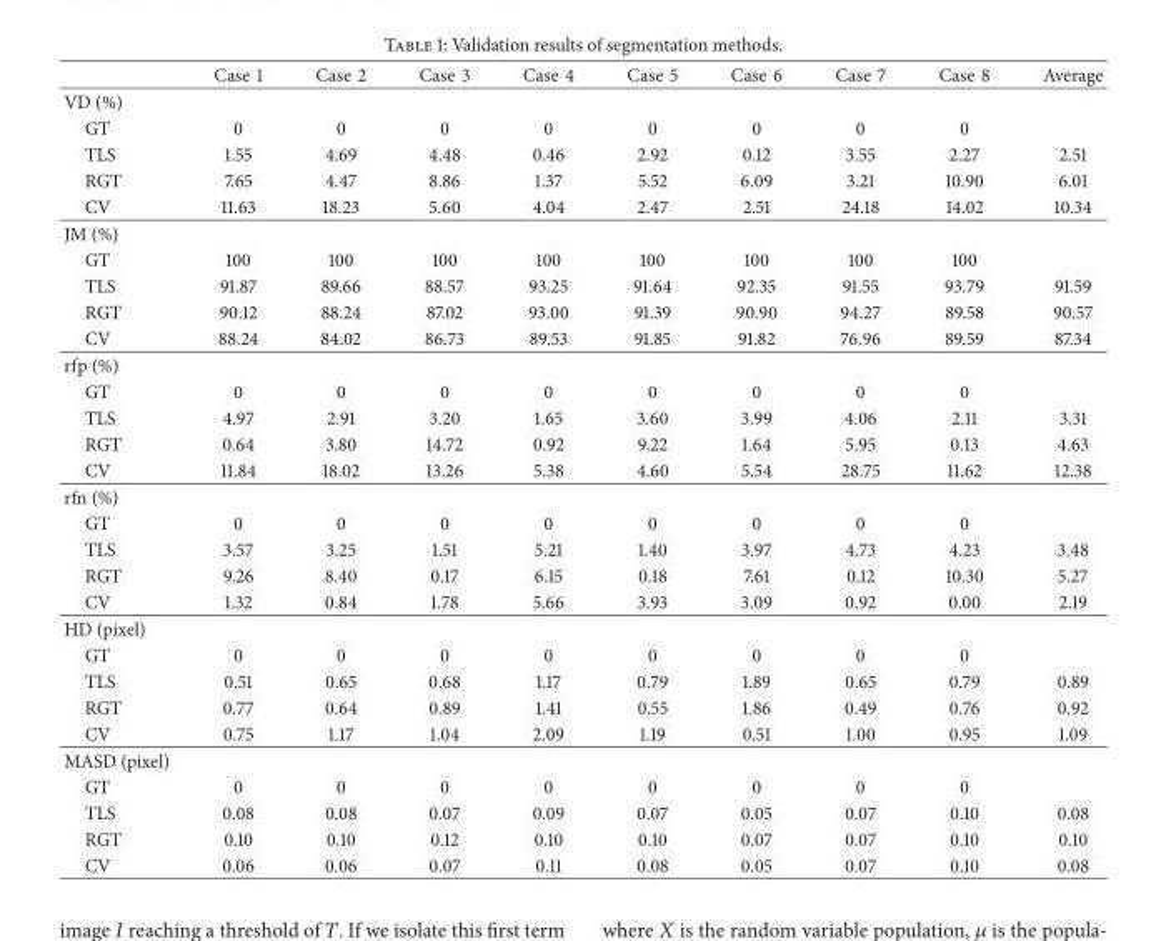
<table><thead><tr><td></td><td>Case 1</td><td>Case 2</td><td>Case 3</td><td>Case 4</td><td>Case 5</td><td>Case 6</td><td>Case 7</td><td>Case 8</td><td>Average</td></tr></thead><tbody><tr><td colspan="10">VD (%)</td></tr><tr><td>GT</td><td>0</td><td>0</td><td>0</td><td>0</td><td>0</td><td>0</td><td>0</td><td>0</td><td></td></tr><tr><td>TLS</td><td>1.55</td><td>4.69</td><td>4.48</td><td>0.46</td><td>2.92</td><td>0.12</td><td>3.55</td><td>2.27</td><td>2.51</td></tr><tr><td>RGT</td><td>7.65</td><td>4.47</td><td>8.86</td><td>1.37</td><td>5.52</td><td>6.09</td><td>3.21</td><td>10.90</td><td>6.01</td></tr><tr><td>CV</td><td>11.63</td><td>18.23</td><td>5.60</td><td>4.04</td><td>2.47</td><td>2.51</td><td>24.18</td><td>14.02</td><td>10.34</td></tr><tr><td colspan="10">JM (%)</td></tr><tr><td>GT</td><td>100</td><td>100</td><td>100</td><td>100</td><td>100</td><td>100</td><td>100</td><td>100</td><td></td></tr><tr><td>TLS</td><td>91.87</td><td>89.66</td><td>88.57</td><td>93.25</td><td>91.64</td><td>92.35</td><td>91.55</td><td>93.79</td><td>91.59</td></tr><tr><td>RGT</td><td>90.12</td><td>88.24</td><td>87.02</td><td>93.00</td><td>91.39</td><td>90.90</td><td>94.27</td><td>89.58</td><td>90.57</td></tr><tr><td>CV</td><td>88.24</td><td>84.02</td><td>86.73</td><td>89.53</td><td>91.85</td><td>91.82</td><td>76.96</td><td>89.59</td><td>87.34</td></tr><tr><td colspan="10">rfp (%)</td></tr><tr><td>GT</td><td>0</td><td>0</td><td>0</td><td>0</td><td>0</td><td>0</td><td>0</td><td>0</td><td></td></tr><tr><td>TLS</td><td>4.97</td><td>2.91</td><td>3.20</td><td>1.65</td><td>3.60</td><td>3.99</td><td>4.06</td><td>2.11</td><td>3.31</td></tr><tr><td>RGT</td><td>0.64</td><td>3.80</td><td>14.72</td><td>0.92</td><td>9.22</td><td>1.64</td><td>5.95</td><td>0.13</td><td>4.63</td></tr><tr><td>CV</td><td>11.84</td><td>18.02</td><td>13.26</td><td>5.38</td><td>4.60</td><td>5.54</td><td>28.75</td><td>11.62</td><td>12.38</td></tr><tr><td colspan="10">rfn (%)</td></tr><tr><td>GT</td><td>0</td><td>0</td><td>0</td><td>0</td><td>0</td><td>0</td><td>0</td><td>0</td><td></td></tr><tr><td>TLS</td><td>3.57</td><td>3.25</td><td>1.51</td><td>5.21</td><td>1.40</td><td>3.97</td><td>4.73</td><td>4.23</td><td>3.48</td></tr><tr><td>RGT</td><td>9.26</td><td>8.40</td><td>0.17</td><td>6.15</td><td>0.18</td><td>7.61</td><td>0.12</td><td>10.30</td><td>5.27</td></tr><tr><td>CV</td><td>1.32</td><td>0.84</td><td>1.78</td><td>5.66</td><td>3.93</td><td>3.09</td><td>0.92</td><td>0.00</td><td>2.19</td></tr><tr><td colspan="10">HD (pixel)</td></tr><tr><td>GT</td><td>0</td><td>0</td><td>0</td><td>0</td><td>0</td><td>0</td><td>0</td><td>0</td><td></td></tr><tr><td>TLS</td><td>0.51</td><td>0.65</td><td>0.68</td><td>1.17</td><td>0.79</td><td>1.89</td><td>0.65</td><td>0.79</td><td>0.89</td></tr><tr><td>RGT</td><td>0.77</td><td>0.64</td><td>0.89</td><td>1.41</td><td>0.55</td><td>1.86</td><td>0.49</td><td>0.76</td><td>0.92</td></tr><tr><td>CV</td><td>0.75</td><td>1.17</td><td>1.04</td><td>2.09</td><td>1.19</td><td>0.51</td><td>1.00</td><td>0.95</td><td>1.09</td></tr><tr><td colspan="10">MASD (pixel)</td></tr><tr><td>GT</td><td>0</td><td>0</td><td>0</td><td>0</td><td>0</td><td>0</td><td>0</td><td>0</td><td></td></tr><tr><td>TLS</td><td>0.08</td><td>0.08</td><td>0.07</td><td>0.09</td><td>0.07</td><td>0.05</td><td>0.07</td><td>0.10</td><td>0.08</td></tr><tr><td>RGT</td><td>0.10</td><td>0.10</td><td>0.12</td><td>0.10</td><td>0.10</td><td>0.07</td><td>0.07</td><td>0.10</td><td>0.10</td></tr><tr><td>CV</td><td>0.06</td><td>0.06</td><td>0.07</td><td>0.11</td><td>0.08</td><td>0.05</td><td>0.07</td><td>0.10</td><td>0.08</td></tr></tbody></table>